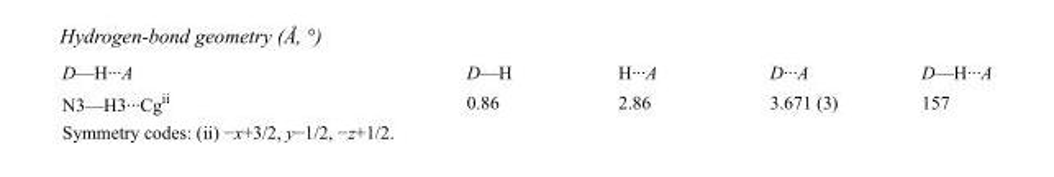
<table><tbody><tr><td>D—H···A</td><td>D—H</td><td>H···A</td><td>D···A</td><td>D—H···A</td></tr><tr><td>N3—H3···Cg<sup>ii</sup></td><td>0.86</td><td>2.86</td><td>3.671 (3)</td><td>157</td></tr></tbody></table>